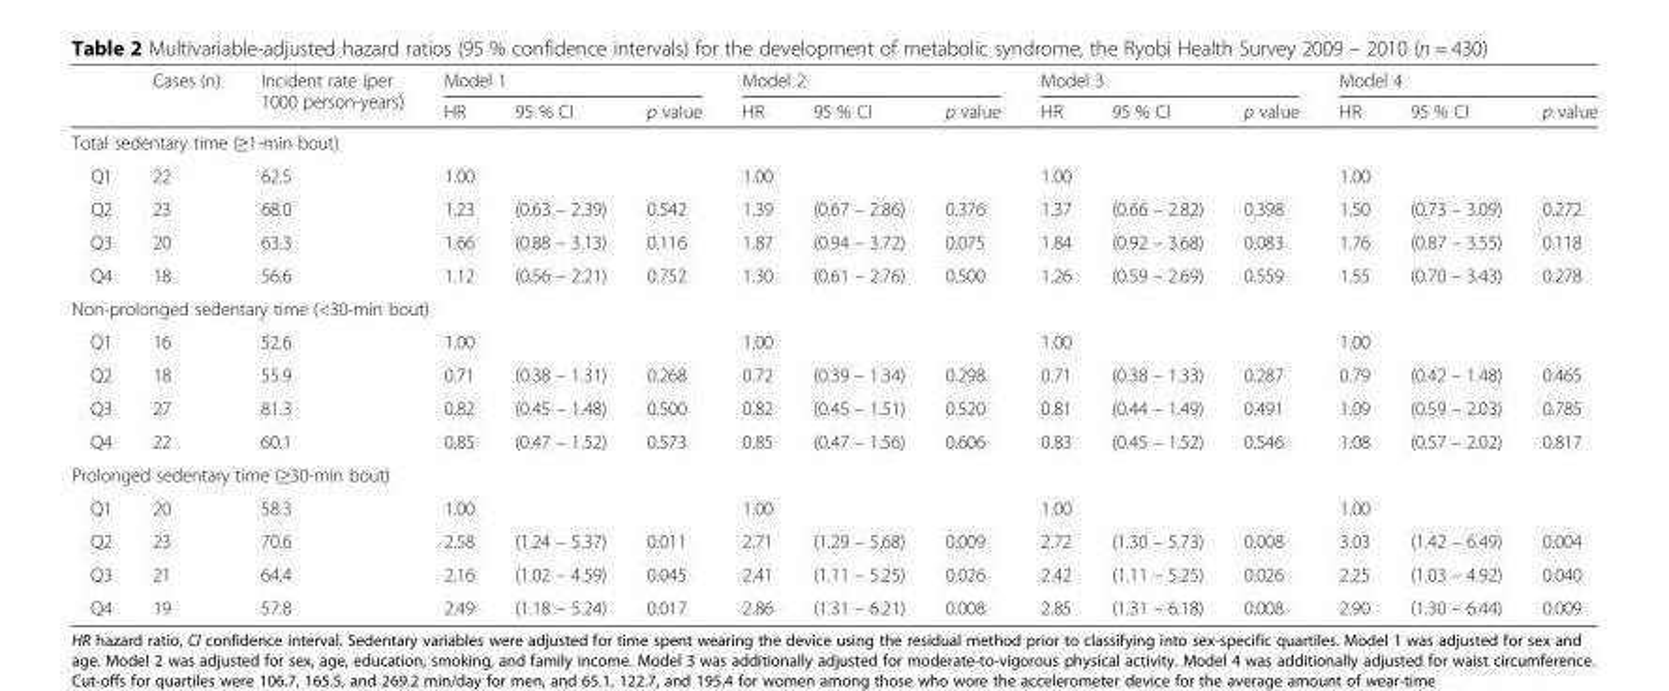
<table><thead><tr><td rowspan="2"></td><td rowspan="2">Cases (n)</td><td rowspan="2">Incident rate (per 1000 person-years)</td><td colspan="3">Model 1</td><td colspan="3">Model 2</td><td colspan="3">Model 3</td><td colspan="3">Model 4</td></tr><tr><td>HR</td><td>95 % CI</td><td>p value</td><td>HR</td><td>95 % CI</td><td>p value</td><td>HR</td><td>95 % CI</td><td>p value</td><td>HR</td><td>95 % CI</td><td>p value</td></tr></thead><tbody><tr><td colspan="15">Total sedentary time (≥1-min bout)</td></tr><tr><td>Q1</td><td>22</td><td>62.5</td><td>1.00</td><td></td><td></td><td>1.00</td><td></td><td></td><td>1.00</td><td></td><td></td><td>1.00</td><td></td><td></td></tr><tr><td>Q2</td><td>23</td><td>68.0</td><td>1.23</td><td>(0.63 – 2.39)</td><td>0.542</td><td>1.39</td><td>(0.67 – 2.86)</td><td>0.376</td><td>1.37</td><td>(0.66 – 2.82)</td><td>0.398</td><td>1.50</td><td>(0.73 – 3.09)</td><td>0.272</td></tr><tr><td>Q3</td><td>20</td><td>63.3</td><td>1.66</td><td>(0.88 – 3.13)</td><td>0.116</td><td>1.87</td><td>(0.94 – 3.72)</td><td>0.075</td><td>1.84</td><td>(0.92 – 3.68)</td><td>0.083</td><td>1.76</td><td>(0.87 – 3.55)</td><td>0.118</td></tr><tr><td>Q4</td><td>18</td><td>56.6</td><td>1.12</td><td>(0.56 – 2.21)</td><td>0.752</td><td>1.30</td><td>(0.61 – 2.76)</td><td>0.500</td><td>1.26</td><td>(0.59 – 2.69)</td><td>0.559</td><td>1.55</td><td>(0.70 – 3.43)</td><td>0.278</td></tr><tr><td colspan="15">Non-prolonged sedentary time (&lt;30-min bout)</td></tr><tr><td>Q1</td><td>16</td><td>52.6</td><td>1.00</td><td></td><td></td><td>1.00</td><td></td><td></td><td>1.00</td><td></td><td></td><td>1.00</td><td></td><td></td></tr><tr><td>Q2</td><td>18</td><td>55.9</td><td>0.71</td><td>(0.38 – 1.31)</td><td>0.268</td><td>0.72</td><td>(0.39 – 1.34)</td><td>0.298</td><td>0.71</td><td>(0.38 – 1.33)</td><td>0.287</td><td>0.79</td><td>(0.42 – 1.48)</td><td>0.465</td></tr><tr><td>Q3</td><td>27</td><td>81.3</td><td>0.82</td><td>(0.45 – 1.48)</td><td>0.500</td><td>0.82</td><td>(0.45 – 1.51)</td><td>0.520</td><td>0.81</td><td>(0.44 – 1.49)</td><td>0.491</td><td>1.09</td><td>(0.59 – 2.03)</td><td>0.785</td></tr><tr><td>Q4</td><td>22</td><td>60.1</td><td>0.85</td><td>(0.47 – 1.52)</td><td>0.573</td><td>0.85</td><td>(0.47 – 1.56)</td><td>0.606</td><td>0.83</td><td>(0.45 – 1.52)</td><td>0.546</td><td>1.08</td><td>(0.57 – 2.02)</td><td>0.817</td></tr><tr><td colspan="15">Prolonged sedentary time (≥30-min bout)</td></tr><tr><td>Q1</td><td>20</td><td>58.3</td><td>1.00</td><td></td><td></td><td>1.00</td><td></td><td></td><td>1.00</td><td></td><td></td><td>1.00</td><td></td><td></td></tr><tr><td>Q2</td><td>23</td><td>70.6</td><td>2.58</td><td>(1.24 – 5.37)</td><td>0.011</td><td>2.71</td><td>(1.29 – 5.68)</td><td>0.009</td><td>2.72</td><td>(1.30 – 5.73)</td><td>0.008</td><td>3.03</td><td>(1.42 – 6.49)</td><td>0.004</td></tr><tr><td>Q3</td><td>21</td><td>64.4</td><td>2.16</td><td>(1.02 – 4.59)</td><td>0.045</td><td>2.41</td><td>(1.11 – 5.25)</td><td>0.026</td><td>2.42</td><td>(1.11 – 5.25)</td><td>0.026</td><td>2.25</td><td>(1.03 – 4.92)</td><td>0.040</td></tr><tr><td>Q4</td><td>19</td><td>57.8</td><td>2.49</td><td>(1.18 – 5.24)</td><td>0.017</td><td>2.86</td><td>(1.31 – 6.21)</td><td>0.008</td><td>2.85</td><td>(1.31 – 6.18)</td><td>0.008</td><td>2.90</td><td>(1.30 – 6.44)</td><td>0.009</td></tr></tbody></table>